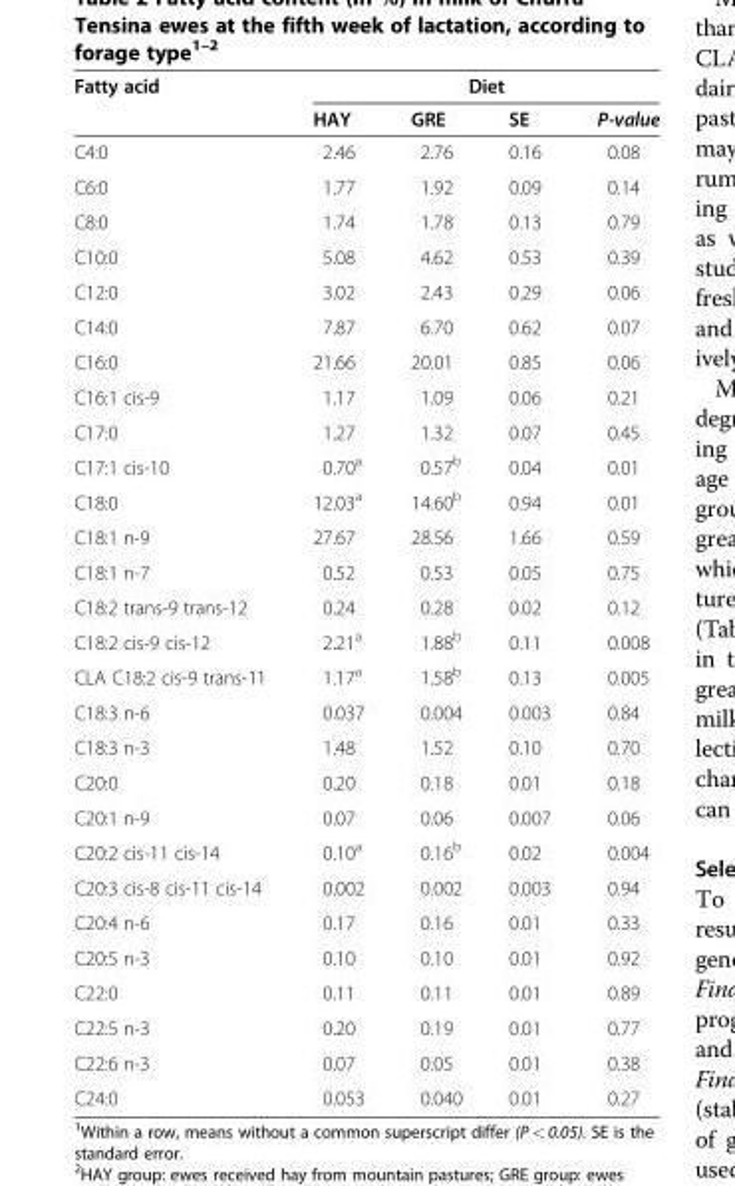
<table><thead><tr><td rowspan="2">Fatty acid</td><td colspan="4">Diet</td></tr><tr><td>HAY</td><td>GRE</td><td>SE</td><td>P-value</td></tr></thead><tbody><tr><td>C4:0</td><td>2.46</td><td>2.76</td><td>0.16</td><td>0.08</td></tr><tr><td>C6:0</td><td>1.77</td><td>1.92</td><td>0.09</td><td>0.14</td></tr><tr><td>C8:0</td><td>1.74</td><td>1.78</td><td>0.13</td><td>0.79</td></tr><tr><td>C10:0</td><td>5.08</td><td>4.62</td><td>0.53</td><td>0.39</td></tr><tr><td>C12:0</td><td>3.02</td><td>2.43</td><td>0.29</td><td>0.06</td></tr><tr><td>C14:0</td><td>7.87</td><td>6.70</td><td>0.62</td><td>0.07</td></tr><tr><td>C16:0</td><td>21.66</td><td>20.01</td><td>0.85</td><td>0.06</td></tr><tr><td>C16:1 cis-9</td><td>1.17</td><td>1.09</td><td>0.06</td><td>0.21</td></tr><tr><td>C17:0</td><td>1.27</td><td>1.32</td><td>0.07</td><td>0.45</td></tr><tr><td>C17:1 cis-10</td><td>0.70<sup>a</sup></td><td>0.57<sup>b</sup></td><td>0.04</td><td>0.01</td></tr><tr><td>C18:0</td><td>12.03<sup>a</sup></td><td>14.60<sup>b</sup></td><td>0.94</td><td>0.01</td></tr><tr><td>C18:1 n-9</td><td>27.67</td><td>28.56</td><td>1.66</td><td>0.59</td></tr><tr><td>C18:1 n-7</td><td>0.52</td><td>0.53</td><td>0.05</td><td>0.75</td></tr><tr><td>C18:2 trans-9 trans-12</td><td>0.24</td><td>0.28</td><td>0.02</td><td>0.12</td></tr><tr><td>C18:2 cis-9 cis-12</td><td>2.21<sup>a</sup></td><td>1.88<sup>b</sup></td><td>0.11</td><td>0.008</td></tr><tr><td>CLA C18:2 cis-9 trans-11</td><td>1.17<sup>a</sup></td><td>1.58<sup>b</sup></td><td>0.13</td><td>0.005</td></tr><tr><td>C18:3 n-6</td><td>0.037</td><td>0.004</td><td>0.003</td><td>0.84</td></tr><tr><td>C18:3 n-3</td><td>1.48</td><td>1.52</td><td>0.10</td><td>0.70</td></tr><tr><td>C20:0</td><td>0.20</td><td>0.18</td><td>0.01</td><td>0.18</td></tr><tr><td>C20:1 n-9</td><td>0.07</td><td>0.06</td><td>0.007</td><td>0.06</td></tr><tr><td>C20:2 cis-11 cis-14</td><td>0.10<sup>a</sup></td><td>0.16<sup>b</sup></td><td>0.02</td><td>0.004</td></tr><tr><td>C20:3 cis-8 cis-11 cis-14</td><td>0.002</td><td>0.002</td><td>0.003</td><td>0.94</td></tr><tr><td>C20:4 n-6</td><td>0.17</td><td>0.16</td><td>0.01</td><td>0.33</td></tr><tr><td>C20:5 n-3</td><td>0.10</td><td>0.10</td><td>0.01</td><td>0.92</td></tr><tr><td>C22:0</td><td>0.11</td><td>0.11</td><td>0.01</td><td>0.89</td></tr><tr><td>C22:5 n-3</td><td>0.20</td><td>0.19</td><td>0.01</td><td>0.77</td></tr><tr><td>C22:6 n-3</td><td>0.07</td><td>0.05</td><td>0.01</td><td>0.38</td></tr><tr><td>C24:0</td><td>0.053</td><td>0.040</td><td>0.01</td><td>0.27</td></tr></tbody></table>